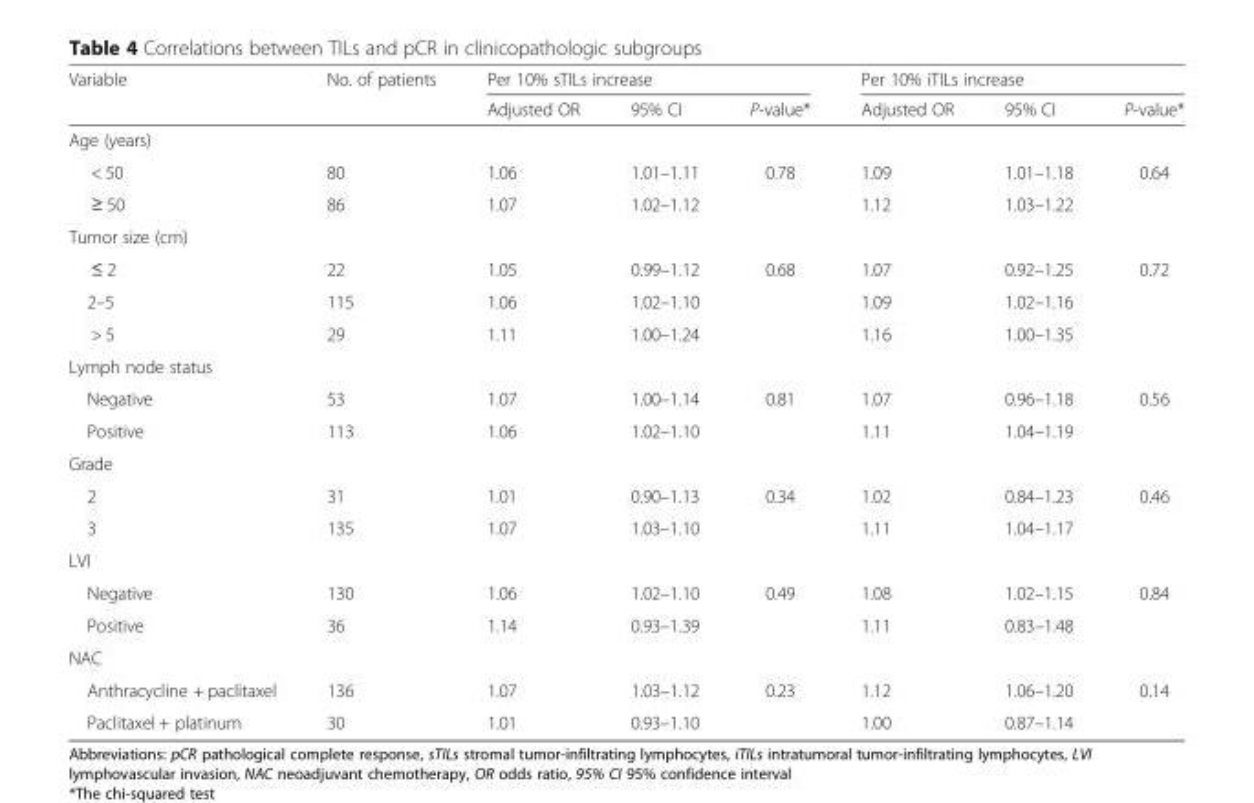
<table><thead><tr><td rowspan="2">Variable</td><td rowspan="2">No. of patients</td><td colspan="3">Per 10% sTILs increase</td><td colspan="3">Per 10% iTILs increase</td></tr><tr><td>Adjusted OR</td><td>95% CI</td><td>P-value*</td><td>Adjusted OR</td><td>95% CI</td><td>P-value*</td></tr></thead><tbody><tr><td colspan="8">Age (years)</td></tr><tr><td>&lt; 50</td><td>80</td><td>1.06</td><td>1.01–1.11</td><td rowspan="2">0.78</td><td>1.09</td><td>1.01–1.18</td><td rowspan="2">0.64</td></tr><tr><td>≥ 50</td><td>86</td><td>1.07</td><td>1.02–1.12</td><td>1.12</td><td>1.03–1.22</td></tr><tr><td colspan="8">Tumor size (cm)</td></tr><tr><td>≤ 2</td><td>22</td><td>1.05</td><td>0.99–1.12</td><td rowspan="3">0.68</td><td>1.07</td><td>0.92–1.25</td><td rowspan="3">0.72</td></tr><tr><td>2–5</td><td>115</td><td>1.06</td><td>1.02–1.10</td><td>1.09</td><td>1.02–1.16</td></tr><tr><td>&gt; 5</td><td>29</td><td>1.11</td><td>1.00–1.24</td><td>1.16</td><td>1.00–1.35</td></tr><tr><td colspan="8">Lymph node status</td></tr><tr><td>Negative</td><td>53</td><td>1.07</td><td>1.00–1.14</td><td rowspan="2">0.81</td><td>1.07</td><td>0.96–1.18</td><td rowspan="2">0.56</td></tr><tr><td>Positive</td><td>113</td><td>1.06</td><td>1.02–1.10</td><td>1.11</td><td>1.04–1.19</td></tr><tr><td colspan="8">Grade</td></tr><tr><td>2</td><td>31</td><td>1.01</td><td>0.90–1.13</td><td rowspan="2">0.34</td><td>1.02</td><td>0.84–1.23</td><td rowspan="2">0.46</td></tr><tr><td>3</td><td>135</td><td>1.07</td><td>1.03–1.10</td><td>1.11</td><td>1.04–1.17</td></tr><tr><td colspan="8">LVI</td></tr><tr><td>Negative</td><td>130</td><td>1.06</td><td>1.02–1.10</td><td rowspan="2">0.49</td><td>1.08</td><td>1.02–1.15</td><td rowspan="2">0.84</td></tr><tr><td>Positive</td><td>36</td><td>1.14</td><td>0.93–1.39</td><td>1.11</td><td>0.83–1.48</td></tr><tr><td colspan="8">NAC</td></tr><tr><td>Anthracycline + paclitaxel</td><td>136</td><td>1.07</td><td>1.03–1.12</td><td rowspan="2">0.23</td><td>1.12</td><td>1.06–1.20</td><td rowspan="2">0.14</td></tr><tr><td>Paclitaxel + platinum</td><td>30</td><td>1.01</td><td>0.93–1.10</td><td>1.00</td><td>0.87–1.14</td></tr></tbody></table>